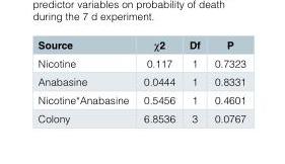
<table><thead><tr><td>Source</td><td>χ2</td><td>Df</td><td>P</td></tr></thead><tbody><tr><td>Nicotine</td><td>0.117</td><td>1</td><td>0.7323</td></tr><tr><td>Anabasine</td><td>0.0444</td><td>1</td><td>0.8331</td></tr><tr><td>Nicotine*Anabasine</td><td>0.5456</td><td>1</td><td>0.4601</td></tr><tr><td>Colony</td><td>6.8536</td><td>3</td><td>0.0767</td></tr></tbody></table>